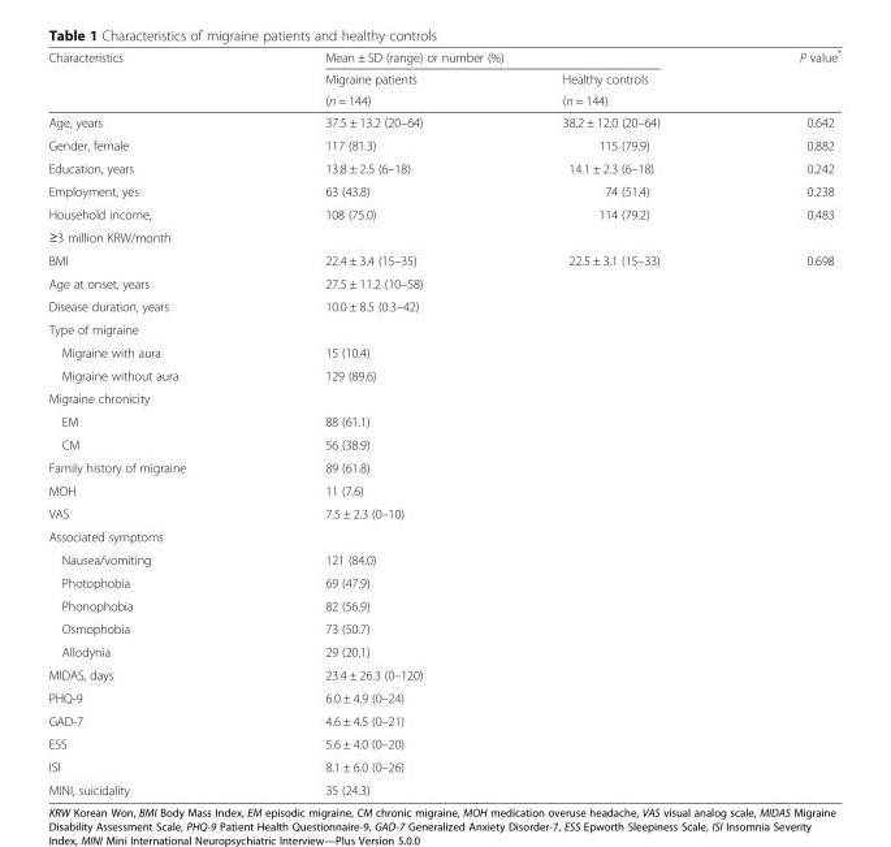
<table><thead><tr><td rowspan="3">Characteristics</td><td colspan="2">Mean ± SD (range) or number (%)</td><td rowspan="3">P value*</td></tr><tr><td rowspan="2">Migraine patients (n = 144)</td><td rowspan="2">Healthy controls (n = 144)</td></tr><tr></tr></thead><tbody><tr><td>Age, years</td><td>37.5 ± 13.2 (20–64)</td><td>38.2 ± 12.0 (20–64)</td><td>0.642</td></tr><tr><td>Gender, female</td><td>117 (81.3)</td><td>115 (79.9)</td><td>0.882</td></tr><tr><td>Education, years</td><td>13.8 ± 2.5 (6–18)</td><td>14.1 ± 2.3 (6–18)</td><td>0.242</td></tr><tr><td>Employment, yes</td><td>63 (43.8)</td><td>74 (51.4)</td><td>0.238</td></tr><tr><td>Household income,</td><td>108 (75.0)</td><td>114 (79.2)</td><td>0.483</td></tr><tr><td colspan="4">≥3 million KRW/month</td></tr><tr><td>BMI</td><td>22.4 ± 3.4 (15–35)</td><td>22.5 ± 3.1 (15–33)</td><td>0.698</td></tr><tr><td>Age at onset, years</td><td>27.5 ± 11.2 (10–58)</td><td></td><td></td></tr><tr><td>Disease duration, years</td><td>10.0 ± 8.5 (0.3–42)</td><td></td><td></td></tr><tr><td colspan="4">Type of migraine</td></tr><tr><td>Migraine with aura</td><td>15 (10.4)</td><td></td><td></td></tr><tr><td>Migraine without aura</td><td>129 (89.6)</td><td></td><td></td></tr><tr><td colspan="4">Migraine chronicity</td></tr><tr><td>EM</td><td>88 (61.1)</td><td></td><td></td></tr><tr><td>CM</td><td>56 (38.9)</td><td></td><td></td></tr><tr><td>Family history of migraine</td><td>89 (61.8)</td><td></td><td></td></tr><tr><td>MOH</td><td>11 (7.6)</td><td></td><td></td></tr><tr><td>VAS</td><td>7.5 ± 2.3 (0–10)</td><td></td><td></td></tr><tr><td colspan="4">Associated symptoms</td></tr><tr><td>Nausea/vomiting</td><td>121 (84.0)</td><td></td><td></td></tr><tr><td>Photophobia</td><td>69 (47.9)</td><td></td><td></td></tr><tr><td>Phonophobia</td><td>82 (56.9)</td><td></td><td></td></tr><tr><td>Osmophobia</td><td>73 (50.7)</td><td></td><td></td></tr><tr><td>Allodynia</td><td>29 (20.1)</td><td></td><td></td></tr><tr><td>MIDAS, days</td><td>23.4 ± 26.3 (0–120)</td><td></td><td></td></tr><tr><td>PHQ-9</td><td>6.0 ± 4.9 (0–24)</td><td></td><td></td></tr><tr><td>GAD-7</td><td>4.6 ± 4.5 (0–21)</td><td></td><td></td></tr><tr><td>ESS</td><td>5.6 ± 4.0 (0–20)</td><td></td><td></td></tr><tr><td>ISI</td><td>8.1 ± 6.0 (0–26)</td><td></td><td></td></tr><tr><td>MINI, suicidality</td><td>35 (24.3)</td><td></td><td></td></tr></tbody></table>